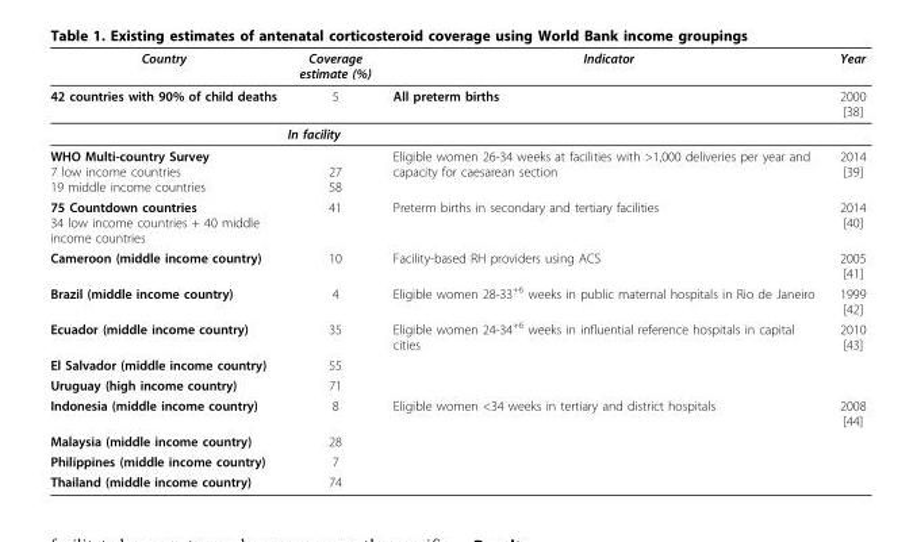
<table><thead><tr><td>Country</td><td>Coverage estimate (%)</td><td>Indicator</td><td>Year</td></tr></thead><tbody><tr><td rowspan="2">42 countries with 90% of child deaths</td><td>5</td><td>All preterm births</td><td>2000 [38]</td></tr><tr><td colspan="2">In facility</td><td></td></tr><tr><td>WHO Multi-country Survey 7 low income countries 19 middle income countries</td><td>27 58</td><td>Eligible women 26-34 weeks at facilities with &gt;1,000 deliveries per year and capacity for caesarean section</td><td>2014 [39]</td></tr><tr><td>75 Countdown countries 34 low income countries + 40 middle income countries</td><td>41</td><td>Preterm births in secondary and tertiary facilities</td><td>2014 [40]</td></tr><tr><td>Cameroon (middle income country)</td><td>10</td><td>Facility-based RH providers using ACS</td><td>2005 [41]</td></tr><tr><td>Brazil (middle income country)</td><td>4</td><td>Eligible women 28-33<sup>+6</sup> weeks in public maternal hospitals in Rio de Janeiro</td><td>1999 [42]</td></tr><tr><td>Ecuador (middle income country)</td><td>35</td><td>Eligible women 24-34<sup>+6</sup> weeks in influential reference hospitals in capital cities</td><td>2010 [43]</td></tr><tr><td>El Salvador (middle income country)</td><td>55</td><td></td><td></td></tr><tr><td>Uruguay (high income country)</td><td>71</td><td></td><td></td></tr><tr><td>Indonesia (middle income country)</td><td>8</td><td>Eligible women &lt;34 weeks in tertiary and district hospitals</td><td>2008 [44]</td></tr><tr><td>Malaysia (middle income country)</td><td>28</td><td></td><td></td></tr><tr><td>Philippines (middle income country)</td><td>7</td><td></td><td></td></tr><tr><td>Thailand (middle income country)</td><td>74</td><td></td><td></td></tr></tbody></table>